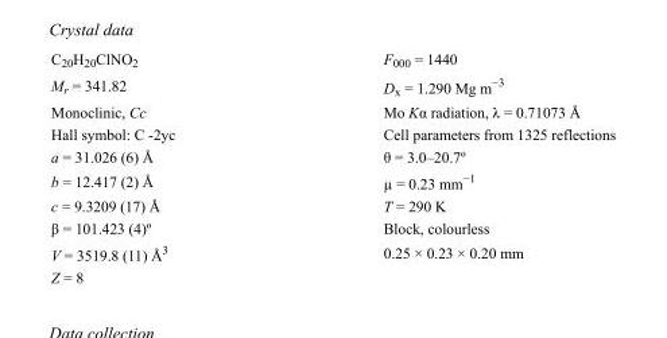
<table><tbody><tr><td>C<sub>20</sub>H<sub>20</sub>ClNO<sub>2</sub></td><td>F000 = 1440</td></tr><tr><td>M<sub>r</sub> = 341.82</td><td>D<sub>x</sub> = 1.290 Mg m<sup>−3</sup></td></tr><tr><td>Monoclinic, Cc</td><td>Mo Kα radiation, λ = 0.71073 Å</td></tr><tr><td>Hall symbol: C -2yc</td><td>Cell parameters from 1325 reflections</td></tr><tr><td>a = 31.026 (6) Å</td><td>θ = 3.0–20.7º</td></tr><tr><td>b = 12.417 (2) Å</td><td>µ = 0.23 mm<sup>−1</sup></td></tr><tr><td>c = 9.3209 (17) Å</td><td>T = 290 K</td></tr><tr><td>β = 101.423 (4)º</td><td>Block, colourless</td></tr><tr><td>V = 3519.8 (11) Å<sup>3</sup></td><td>0.25 × 0.23 × 0.20 mm</td></tr><tr><td>Z = 8</td><td></td></tr></tbody></table>